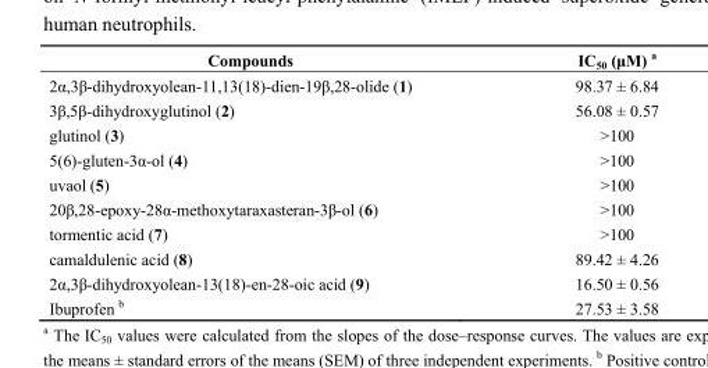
<table><thead><tr><td>Compounds</td><td>IC<sub>50</sub> (μM) <sup>a</sup></td></tr></thead><tbody><tr><td>2α,3β-dihydroxyolean-11,13(18)-dien-19β,28-olide (1)</td><td>98.37 ± 6.84</td></tr><tr><td>3β,5β-dihydroxyglutinol (2)</td><td>56.08 ± 0.57</td></tr><tr><td>glutinol (3)</td><td>&gt;100</td></tr><tr><td>5(6)-gluten-3α-ol (4)</td><td>&gt;100</td></tr><tr><td>uvaol (5)</td><td>&gt;100</td></tr><tr><td>20β,28-epoxy-28α-methoxytaraxasteran-3β-ol (6)</td><td>&gt;100</td></tr><tr><td>tormentic acid (7)</td><td>&gt;100</td></tr><tr><td>camaldulenic acid (8)</td><td>89.42 ± 4.26</td></tr><tr><td>2α,3β-dihydroxyolean-13(18)-en-28-oic acid (9)</td><td>16.50 ± 0.56</td></tr><tr><td>Ibuprofen <sup>b</sup></td><td>27.53 ± 3.58</td></tr></tbody></table>